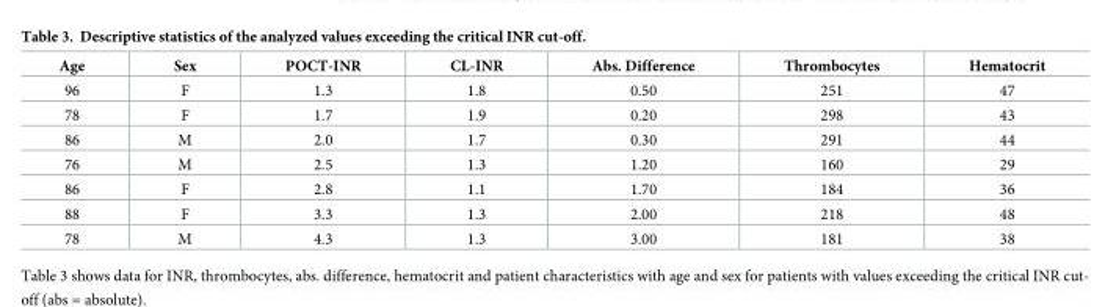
<table><thead><tr><td>Age</td><td>Sex</td><td>POCT-INR</td><td>CL-INR</td><td>Abs. Difference</td><td>Thrombocytes</td><td>Hematocrit</td></tr></thead><tbody><tr><td>96</td><td>F</td><td>1.3</td><td>1.8</td><td>0.50</td><td>251</td><td>47</td></tr><tr><td>78</td><td>F</td><td>1.7</td><td>1.9</td><td>0.20</td><td>298</td><td>43</td></tr><tr><td>86</td><td>M</td><td>2.0</td><td>1.7</td><td>0.30</td><td>291</td><td>44</td></tr><tr><td>76</td><td>M</td><td>2.5</td><td>1.3</td><td>1.20</td><td>160</td><td>29</td></tr><tr><td>86</td><td>F</td><td>2.8</td><td>1.1</td><td>1.70</td><td>184</td><td>36</td></tr><tr><td>88</td><td>F</td><td>3.3</td><td>1.3</td><td>2.00</td><td>218</td><td>48</td></tr><tr><td>78</td><td>M</td><td>4.3</td><td>1.3</td><td>3.00</td><td>181</td><td>38</td></tr></tbody></table>